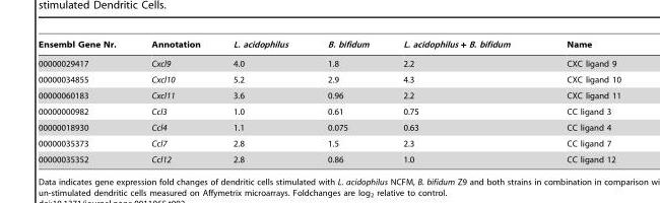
<table><thead><tr><td>Ensembl Gene Nr.</td><td>Annotation</td><td>L. acidophilus</td><td>B. bifidum</td><td>L. acidophilus + B. bifidum</td><td>Name</td></tr></thead><tbody><tr><td>00000029417</td><td>Cxcl9</td><td>4.0</td><td>1.8</td><td>2.2</td><td>CXC ligand 9</td></tr><tr><td>00000034855</td><td>Cxcl10</td><td>5.2</td><td>2.9</td><td>4.3</td><td>CXC ligand 10</td></tr><tr><td>00000060183</td><td>Cxcl11</td><td>3.6</td><td>0.96</td><td>2.2</td><td>CXC ligand 11</td></tr><tr><td>00000000982</td><td>Ccl3</td><td>1.0</td><td>0.61</td><td>0.75</td><td>CC ligand 3</td></tr><tr><td>00000018930</td><td>Ccl4</td><td>1.1</td><td>0.075</td><td>0.63</td><td>CC ligand 4</td></tr><tr><td>00000035373</td><td>Ccl7</td><td>2.8</td><td>1.5</td><td>2.3</td><td>CC ligand 7</td></tr><tr><td>00000035352</td><td>Ccl12</td><td>2.8</td><td>0.86</td><td>1.0</td><td>CC ligand 12</td></tr></tbody></table>